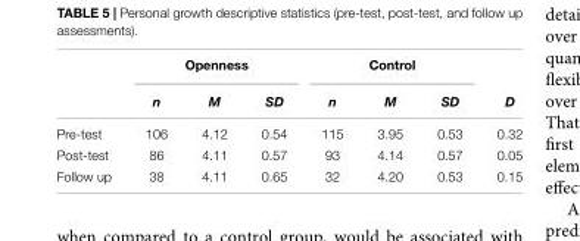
<table><thead><tr><td rowspan="2"></td><td colspan="3">Openness</td><td colspan="3">Control</td><td rowspan="2">D</td></tr><tr><td>n</td><td>M</td><td>SD</td><td>n</td><td>M</td><td>SD</td></tr></thead><tbody><tr><td>Pre-test</td><td>106</td><td>4.12</td><td>0.54</td><td>115</td><td>3.95</td><td>0.53</td><td>0.32</td></tr><tr><td>Post-test</td><td>86</td><td>4.11</td><td>0.57</td><td>93</td><td>4.14</td><td>0.57</td><td>0.05</td></tr><tr><td>Follow up</td><td>38</td><td>4.11</td><td>0.65</td><td>32</td><td>4.20</td><td>0.53</td><td>0.15</td></tr></tbody></table>